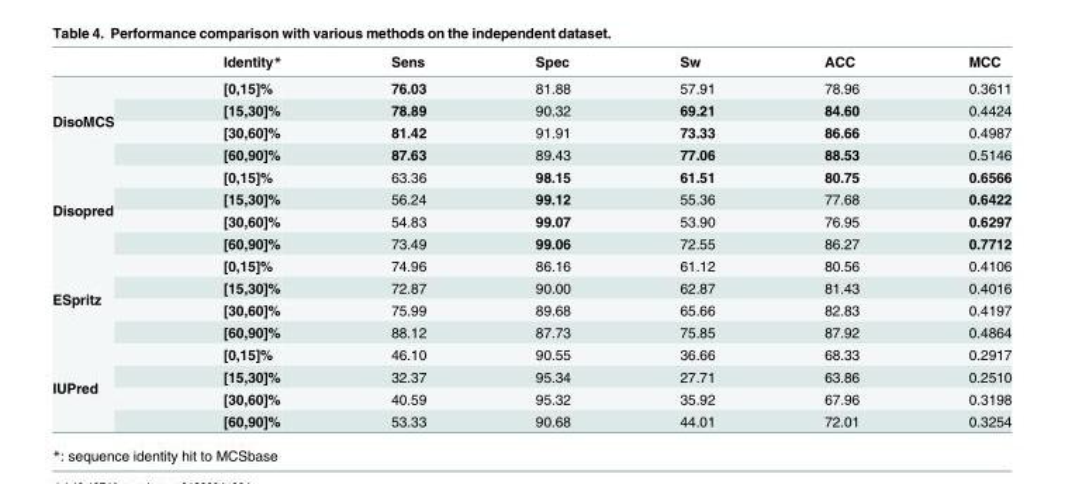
<table><thead><tr><td></td><td>Identity*</td><td>Sens</td><td>Spec</td><td>Sw</td><td>ACC</td><td>MCC</td></tr></thead><tbody><tr><td rowspan="4">DisoMCS</td><td>[0,15]%</td><td>76.03</td><td>81.88</td><td>57.91</td><td>78.96</td><td>0.3611</td></tr><tr><td>[15,30]%</td><td>78.89</td><td>90.32</td><td>69.21</td><td>84.60</td><td>0.4424</td></tr><tr><td>[30,60]%</td><td>81.42</td><td>91.91</td><td>73.33</td><td>86.66</td><td>0.4987</td></tr><tr><td>[60,90]%</td><td>87.63</td><td>89.43</td><td>77.06</td><td>88.53</td><td>0.5146</td></tr><tr><td rowspan="4">Disopred</td><td>[0,15]%</td><td>63.36</td><td>98.15</td><td>61.51</td><td>80.75</td><td>0.6566</td></tr><tr><td>[15,30]%</td><td>56.24</td><td>99.12</td><td>55.36</td><td>77.68</td><td>0.6422</td></tr><tr><td>[30,60]%</td><td>54.83</td><td>99.07</td><td>53.90</td><td>76.95</td><td>0.6297</td></tr><tr><td>[60,90]%</td><td>73.49</td><td>99.06</td><td>72.55</td><td>86.27</td><td>0.7712</td></tr><tr><td rowspan="4">ESpritz</td><td>[0,15]%</td><td>74.96</td><td>86.16</td><td>61.12</td><td>80.56</td><td>0.4106</td></tr><tr><td>[15,30]%</td><td>72.87</td><td>90.00</td><td>62.87</td><td>81.43</td><td>0.4016</td></tr><tr><td>[30,60]%</td><td>75.99</td><td>89.68</td><td>65.66</td><td>82.83</td><td>0.4197</td></tr><tr><td>[60,90]%</td><td>88.12</td><td>87.73</td><td>75.85</td><td>87.92</td><td>0.4864</td></tr><tr><td rowspan="4">IUPred</td><td>[0,15]%</td><td>46.10</td><td>90.55</td><td>36.66</td><td>68.33</td><td>0.2917</td></tr><tr><td>[15,30]%</td><td>32.37</td><td>95.34</td><td>27.71</td><td>63.86</td><td>0.2510</td></tr><tr><td>[30,60]%</td><td>40.59</td><td>95.32</td><td>35.92</td><td>67.96</td><td>0.3198</td></tr><tr><td>[60,90]%</td><td>53.33</td><td>90.68</td><td>44.01</td><td>72.01</td><td>0.3254</td></tr></tbody></table>